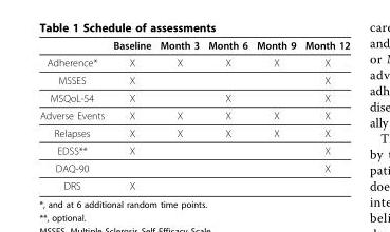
<table><thead><tr><td></td><td>Baseline</td><td>Month 3</td><td>Month 6</td><td>Month 9</td><td>Month 12</td></tr></thead><tbody><tr><td>Adherence*</td><td>X</td><td>X</td><td>X</td><td>X</td><td>X</td></tr><tr><td>MSSES</td><td>X</td><td></td><td></td><td></td><td>X</td></tr><tr><td>MSQoL-54</td><td>X</td><td></td><td>X</td><td></td><td>X</td></tr><tr><td>Adverse Events</td><td>X</td><td>X</td><td>X</td><td>X</td><td>X</td></tr><tr><td>Relapses</td><td>X</td><td>X</td><td>X</td><td>X</td><td>X</td></tr><tr><td>EDSS**</td><td>X</td><td></td><td></td><td></td><td>X</td></tr><tr><td>DAQ-90</td><td></td><td></td><td></td><td></td><td>X</td></tr><tr><td>DRS</td><td>X</td><td></td><td></td><td></td><td></td></tr></tbody></table>